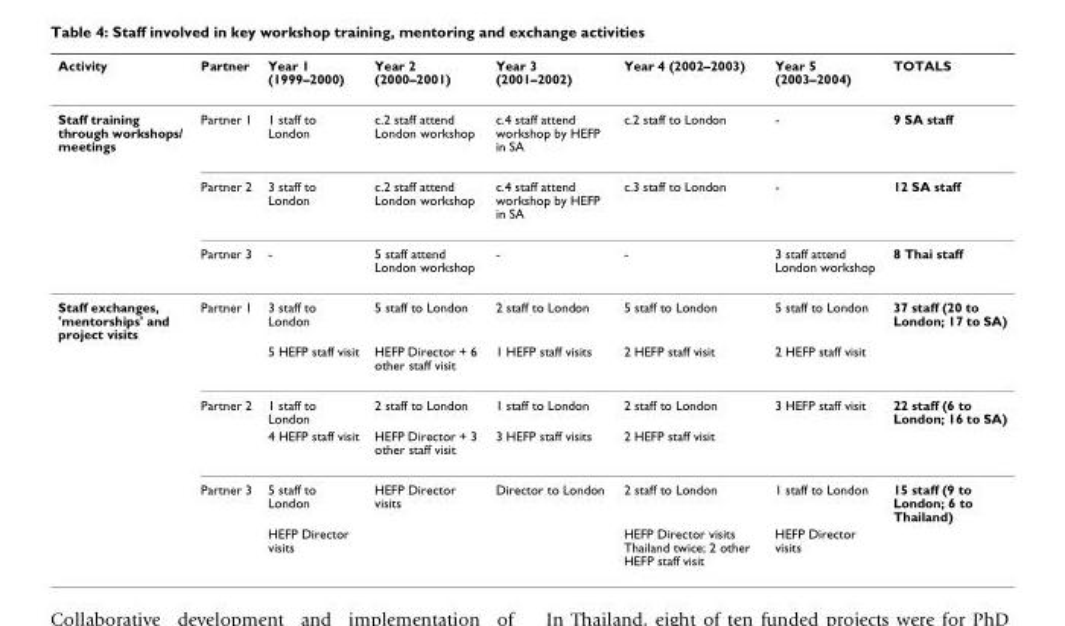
<table><thead><tr><td>Activity</td><td>Partner</td><td>Year 1 (1999–2000)</td><td>Year 2 (2000–2001)</td><td>Year 3 (2001–2002)</td><td>Year 4 (2002–2003)</td><td>Year 5 (2003–2004)</td><td>TOTALS</td></tr></thead><tbody><tr><td rowspan="3">Staff training through workshops/ meetings</td><td>Partner 1</td><td>1 staff to London</td><td>c.2 staff attend London workshop</td><td>c.4 staff attend workshop by HEFP in SA</td><td>c.2 staff to London</td><td>-</td><td>9 SA staff</td></tr><tr><td>Partner 2</td><td>3 staff to London</td><td>c.2 staff attend London workshop</td><td>c.4 staff attend workshop by HEFP in SA</td><td>c.3 staff to London</td><td>-</td><td>12 SA staff</td></tr><tr><td>Partner 3</td><td>-</td><td>5 staff attend London workshop</td><td>-</td><td>-</td><td>3 staff attend London workshop</td><td>8 Thai staff</td></tr><tr><td rowspan="6">Staff exchanges, &#x27;mentorships&#x27; and project visits</td><td>Partner 1</td><td>3 staff to London</td><td>5 staff to London</td><td>2 staff to London</td><td>5 staff to London</td><td>5 staff to London</td><td>37 staff (20 to London; 17 to SA)</td></tr><tr><td></td><td>5 HEFP staff visit</td><td>HEFP Director + 6 other staff visit</td><td>1 HEFP staff visits</td><td>2 HEFP staff visit</td><td>2 HEFP staff visit</td><td></td></tr><tr><td>Partner 2</td><td>1 staff to London</td><td>2 staff to London</td><td>1 staff to London</td><td>2 staff to London</td><td>3 HEFP staff visit</td><td>22 staff (6 to London; 16 to SA)</td></tr><tr><td></td><td>4 HEFP staff visit</td><td>HEFP Director + 3 other staff visit</td><td>3 HEFP staff visits</td><td>2 HEFP staff visit</td><td></td><td></td></tr><tr><td>Partner 3</td><td>5 staff to London</td><td>HEFP Director visits</td><td>Director to London</td><td>2 staff to London</td><td>1 staff to London</td><td>15 staff (9 to London; 6 to Thailand)</td></tr><tr><td></td><td>HEFP Director visits</td><td></td><td></td><td>HEFP Director visits Thailand twice; 2 other HEFP staff visit</td><td>HEFP Director visits</td><td></td></tr></tbody></table>